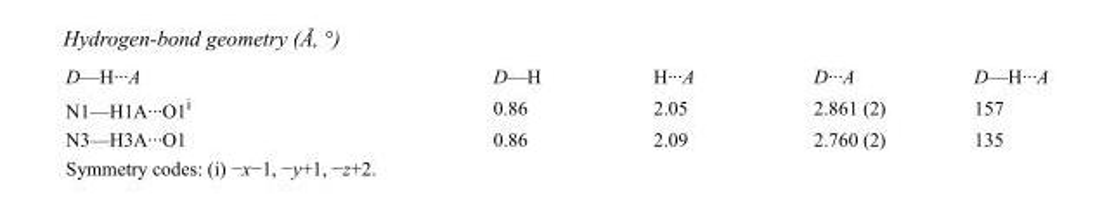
<table><tbody><tr><td>D—H···A</td><td>D—H</td><td>H···A</td><td>D···A</td><td>D—H···A</td></tr><tr><td>N1—H1A···O1<sup>i</sup></td><td>0.86</td><td>2.05</td><td>2.861 (2)</td><td>157</td></tr><tr><td>N3—H3A···O1</td><td>0.86</td><td>2.09</td><td>2.760 (2)</td><td>135</td></tr></tbody></table>